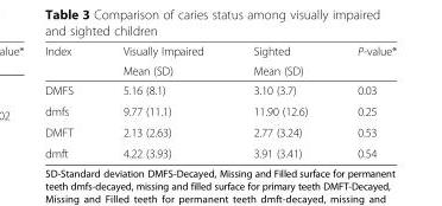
<table><thead><tr><td rowspan="2">Index</td><td rowspan="2">Visually Impaired Mean (SD)</td><td rowspan="2">Sighted Mean (SD)</td><td rowspan="2">P-value*</td></tr><tr></tr></thead><tbody><tr><td>DMFS</td><td>5.16 (8.1)</td><td>3.10 (3.7)</td><td>0.03</td></tr><tr><td>dmfs</td><td>9.77 (11.1)</td><td>11.90 (12.6)</td><td>0.25</td></tr><tr><td>DMFT</td><td>2.13 (2.63)</td><td>2.77 (3.24)</td><td>0.53</td></tr><tr><td>dmft</td><td>4.22 (3.93)</td><td>3.91 (3.41)</td><td>0.54</td></tr></tbody></table>